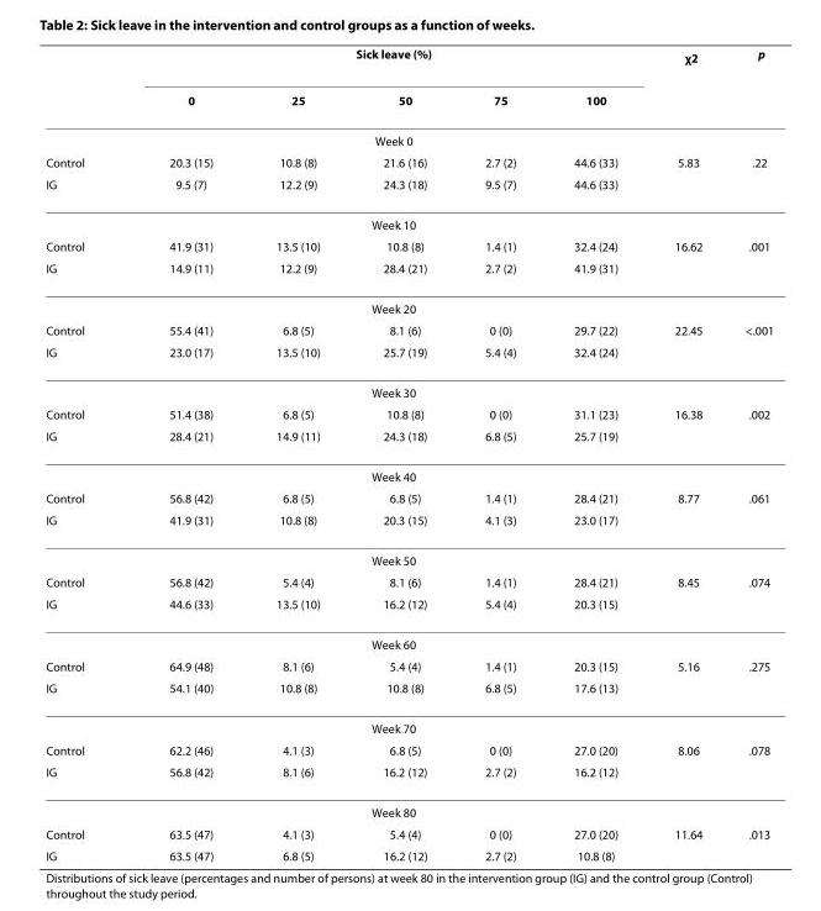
<table><thead><tr><td rowspan="2"></td><td colspan="5">Sick leave (%)</td><td rowspan="2">χ<sup>2</sup></td><td rowspan="2">p</td></tr><tr><td>0</td><td>25</td><td>50</td><td>75</td><td>100</td></tr></thead><tbody><tr><td></td><td colspan="5">Week 0</td><td></td><td></td></tr><tr><td>Control</td><td>20.3 (15)</td><td>10.8 (8)</td><td>21.6 (16)</td><td>2.7 (2)</td><td>44.6 (33)</td><td>5.83</td><td>.22</td></tr><tr><td rowspan="2">IG</td><td>9.5 (7)</td><td>12.2 (9)</td><td>24.3 (18)</td><td>9.5 (7)</td><td>44.6 (33)</td><td></td><td></td></tr><tr><td colspan="5">Week 10</td><td></td><td></td></tr><tr><td>Control</td><td>41.9 (31)</td><td>13.5 (10)</td><td>10.8 (8)</td><td>1.4 (1)</td><td>32.4 (24)</td><td>16.62</td><td>.001</td></tr><tr><td rowspan="2">IG</td><td>14.9 (11)</td><td>12.2 (9)</td><td>28.4 (21)</td><td>2.7 (2)</td><td>41.9 (31)</td><td></td><td></td></tr><tr><td colspan="5">Week 20</td><td></td><td></td></tr><tr><td>Control</td><td>55.4 (41)</td><td>6.8 (5)</td><td>8.1 (6)</td><td>0 (0)</td><td>29.7 (22)</td><td>22.45</td><td>&lt;.001</td></tr><tr><td rowspan="2">IG</td><td>23.0 (17)</td><td>13.5 (10)</td><td>25.7 (19)</td><td>5.4 (4)</td><td>32.4 (24)</td><td></td><td></td></tr><tr><td colspan="5">Week 30</td><td></td><td></td></tr><tr><td>Control</td><td>51.4 (38)</td><td>6.8 (5)</td><td>10.8 (8)</td><td>0 (0)</td><td>31.1 (23)</td><td>16.38</td><td>.002</td></tr><tr><td rowspan="2">IG</td><td>28.4 (21)</td><td>14.9 (11)</td><td>24.3 (18)</td><td>6.8 (5)</td><td>25.7 (19)</td><td></td><td></td></tr><tr><td colspan="5">Week 40</td><td></td><td></td></tr><tr><td>Control</td><td>56.8 (42)</td><td>6.8 (5)</td><td>6.8 (5)</td><td>1.4 (1)</td><td>28.4 (21)</td><td>8.77</td><td>.061</td></tr><tr><td rowspan="2">IG</td><td>41.9 (31)</td><td>10.8 (8)</td><td>20.3 (15)</td><td>4.1 (3)</td><td>23.0 (17)</td><td></td><td></td></tr><tr><td colspan="5">Week 50</td><td></td><td></td></tr><tr><td>Control</td><td>56.8 (42)</td><td>5.4 (4)</td><td>8.1 (6)</td><td>1.4 (1)</td><td>28.4 (21)</td><td>8.45</td><td>.074</td></tr><tr><td rowspan="2">IG</td><td>44.6 (33)</td><td>13.5 (10)</td><td>16.2 (12)</td><td>5.4 (4)</td><td>20.3 (15)</td><td></td><td></td></tr><tr><td colspan="5">Week 60</td><td></td><td></td></tr><tr><td>Control</td><td>64.9 (48)</td><td>8.1 (6)</td><td>5.4 (4)</td><td>1.4 (1)</td><td>20.3 (15)</td><td>5.16</td><td>.275</td></tr><tr><td rowspan="2">IG</td><td>54.1 (40)</td><td>10.8 (8)</td><td>10.8 (8)</td><td>6.8 (5)</td><td>17.6 (13)</td><td></td><td></td></tr><tr><td colspan="5">Week 70</td><td></td><td></td></tr><tr><td>Control</td><td>62.2 (46)</td><td>4.1 (3)</td><td>6.8 (5)</td><td>0 (0)</td><td>27.0 (20)</td><td>8.06</td><td>.078</td></tr><tr><td rowspan="2">IG</td><td>56.8 (42)</td><td>8.1 (6)</td><td>16.2 (12)</td><td>2.7 (2)</td><td>16.2 (12)</td><td></td><td></td></tr><tr><td colspan="5">Week 80</td><td></td><td></td></tr><tr><td>Control</td><td>63.5 (47)</td><td>4.1 (3)</td><td>5.4 (4)</td><td>0 (0)</td><td>27.0 (20)</td><td>11.64</td><td>.013</td></tr><tr><td>IG</td><td>63.5 (47)</td><td>6.8 (5)</td><td>16.2 (12)</td><td>2.7 (2)</td><td>10.8 (8)</td><td></td><td></td></tr></tbody></table>